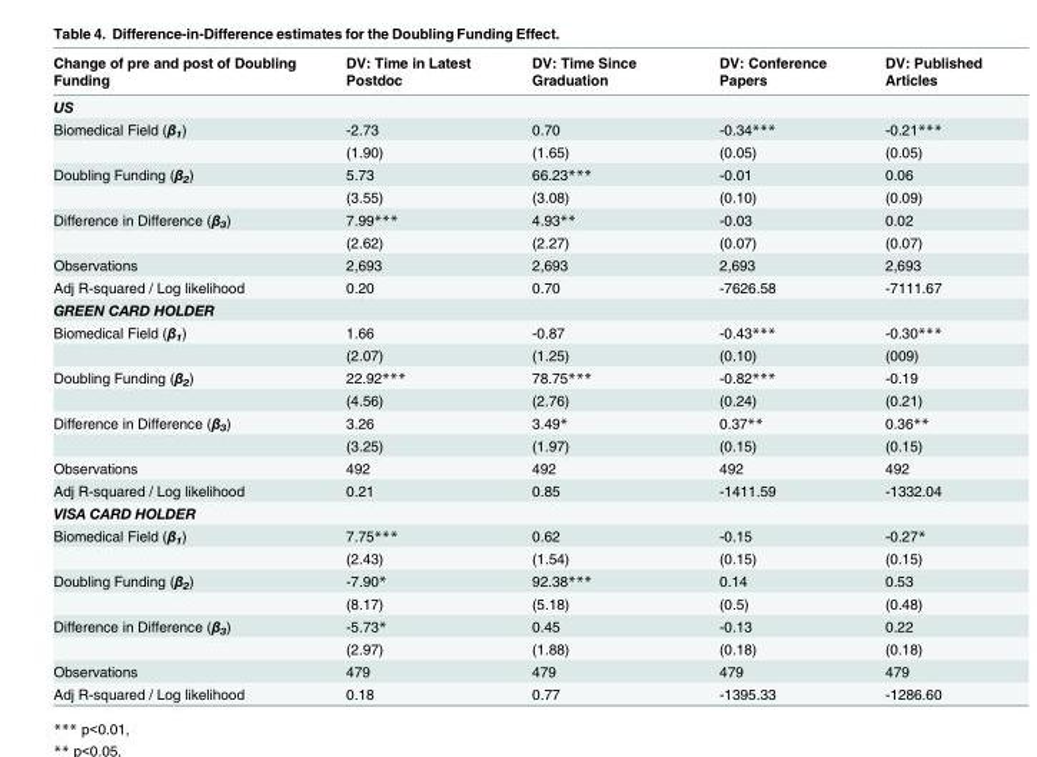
<table><thead><tr><td>Change of pre and post of Doubling Funding</td><td>DV: Time in Latest Postdoc</td><td>DV: Time Since Graduation</td><td>DV: Conference Papers</td><td>DV: Published Articles</td></tr></thead><tbody><tr><td colspan="5">US</td></tr><tr><td rowspan="2">Biomedical Field (β<sub>1</sub>)</td><td>-2.73</td><td>0.70</td><td>-0.34***</td><td>-0.21***</td></tr><tr><td>(1.90)</td><td>(1.65)</td><td>(0.05)</td><td>(0.05)</td></tr><tr><td rowspan="2">Doubling Funding (β<sub>2</sub>)</td><td>5.73</td><td>66.23***</td><td>-0.01</td><td>0.06</td></tr><tr><td>(3.55)</td><td>(3.08)</td><td>(0.10)</td><td>(0.09)</td></tr><tr><td rowspan="2">Difference in Difference (β<sub>3</sub>)</td><td>7.99***</td><td>4.93**</td><td>-0.03</td><td>0.02</td></tr><tr><td>(2.62)</td><td>(2.27)</td><td>(0.07)</td><td>(0.07)</td></tr><tr><td>Observations</td><td>2,693</td><td>2,693</td><td>2,693</td><td>2,693</td></tr><tr><td>Adj R-squared / Log likelihood</td><td>0.20</td><td>0.70</td><td>-7626.58</td><td>-7111.67</td></tr><tr><td colspan="5">GREEN CARD HOLDER</td></tr><tr><td rowspan="2">Biomedical Field (β<sub>1</sub>)</td><td>1.66</td><td>-0.87</td><td>-0.43***</td><td>-0.30***</td></tr><tr><td>(2.07)</td><td>(1.25)</td><td>(0.10)</td><td>(009)</td></tr><tr><td rowspan="2">Doubling Funding (β<sub>2</sub>)</td><td>22.92***</td><td>78.75***</td><td>-0.82***</td><td>-0.19</td></tr><tr><td>(4.56)</td><td>(2.76)</td><td>(0.24)</td><td>(0.21)</td></tr><tr><td rowspan="2">Difference in Difference (β<sub>3</sub>)</td><td>3.26</td><td>3.49*</td><td>0.37**</td><td>0.36**</td></tr><tr><td>(3.25)</td><td>(1.97)</td><td>(0.15)</td><td>(0.15)</td></tr><tr><td>Observations</td><td>492</td><td>492</td><td>492</td><td>492</td></tr><tr><td>Adj R-squared / Log likelihood</td><td>0.21</td><td>0.85</td><td>-1411.59</td><td>-1332.04</td></tr><tr><td colspan="5">VISA CARD HOLDER</td></tr><tr><td rowspan="2">Biomedical Field (β<sub>1</sub>)</td><td>7.75***</td><td>0.62</td><td>-0.15</td><td>-0.27*</td></tr><tr><td>(2.43)</td><td>(1.54)</td><td>(0.15)</td><td>(0.15)</td></tr><tr><td rowspan="2">Doubling Funding (β<sub>2</sub>)</td><td>-7.90*</td><td>92.38***</td><td>0.14</td><td>0.53</td></tr><tr><td>(8.17)</td><td>(5.18)</td><td>(0.5)</td><td>(0.48)</td></tr><tr><td rowspan="2">Difference in Difference (β<sub>3</sub>)</td><td>-5.73*</td><td>0.45</td><td>-0.13</td><td>0.22</td></tr><tr><td>(2.97)</td><td>(1.88)</td><td>(0.18)</td><td>(0.18)</td></tr><tr><td>Observations</td><td>479</td><td>479</td><td>479</td><td>479</td></tr><tr><td>Adj R-squared / Log likelihood</td><td>0.18</td><td>0.77</td><td>-1395.33</td><td>-1286.60</td></tr></tbody></table>